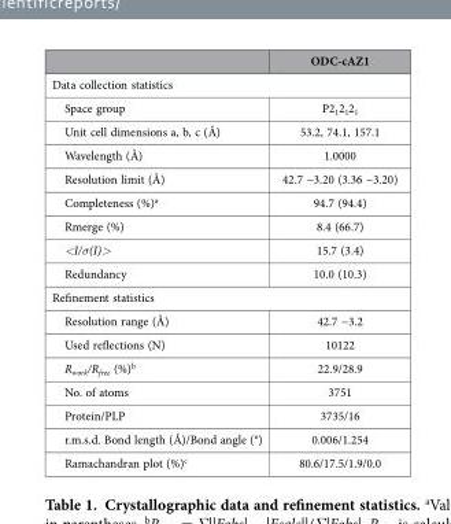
<table><thead><tr><td></td><td>ODC-cAZ1</td></tr></thead><tbody><tr><td colspan="2">Data collection statistics</td></tr><tr><td>Space group</td><td>P2<sub>1</sub>2<sub>1</sub>2<sub>1</sub></td></tr><tr><td>Unit cell dimensions a, b, c (Å)</td><td>53.2, 74.1, 157.1</td></tr><tr><td>Wavelength (Å)</td><td>1.0000</td></tr><tr><td>Resolution limit (Å)</td><td>42.7 −3.20 (3.36 −3.20)</td></tr><tr><td>Completeness (%)<sup>a</sup></td><td>94.7 (94.4)</td></tr><tr><td>Rmerge (%)</td><td>8.4 (66.7)</td></tr><tr><td>&lt;I/σ(I)&gt;</td><td>15.7 (3.4)</td></tr><tr><td>Redundancy</td><td>10.0 (10.3)</td></tr><tr><td colspan="2">Refinement statistics</td></tr><tr><td>Resolution range (Å)</td><td>42.7 −3.2</td></tr><tr><td>Used reflections (N)</td><td>10122</td></tr><tr><td>R<sub>work</sub>/R<sub>free</sub> (%)<sup>b</sup></td><td>22.9/28.9</td></tr><tr><td>No. of atoms</td><td>3751</td></tr><tr><td>Protein/PLP</td><td>3735/16</td></tr><tr><td>r.m.s.d. Bond length (Å)/Bond angle (°)</td><td>0.006/1.254</td></tr><tr><td>Ramachandran plot (%)<sup>c</sup></td><td>80.6/17.5/1.9/0.0</td></tr></tbody></table>